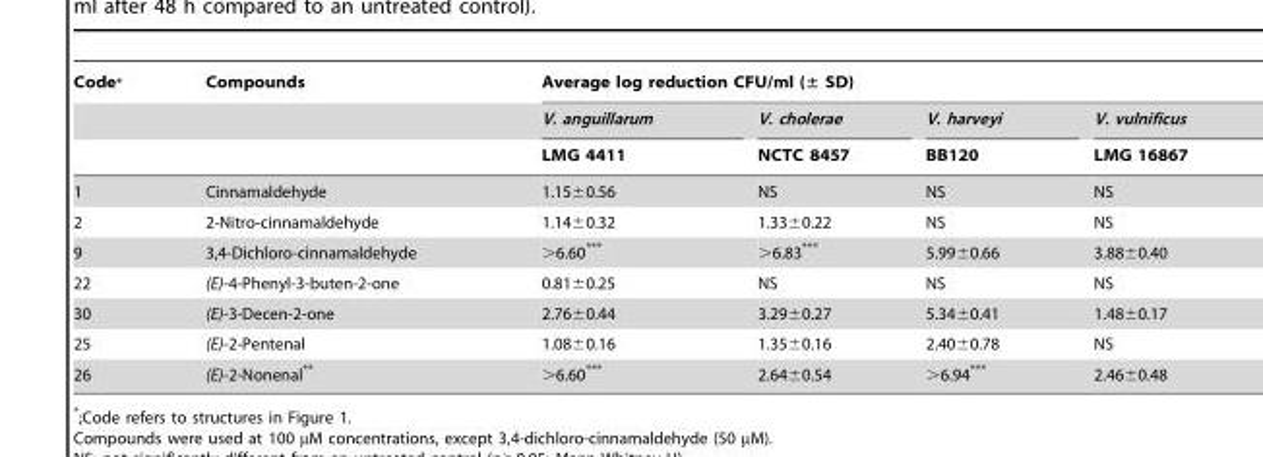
<table><thead><tr><td rowspan="3">Code*</td><td rowspan="3">Compounds</td><td colspan="4">Average log reduction CFU/ml (± SD)</td></tr><tr><td rowspan="2">V. anguillarum LMG 4411</td><td rowspan="2">V. cholerae NCTC 8457</td><td rowspan="2">V. harveyi BB120</td><td rowspan="2">V. vulnificus LMG 16867</td></tr><tr></tr></thead><tbody><tr><td>1</td><td>Cinnamaldehyde</td><td>1.15±0.56</td><td>NS</td><td>NS</td><td>NS</td></tr><tr><td>2</td><td>2-Nitro-cinnamaldehyde</td><td>1.14±0.32</td><td>1.33±0.22</td><td>NS</td><td>NS</td></tr><tr><td>9</td><td>3,4-Dichloro-cinnamaldehyde</td><td>&gt;6.60***</td><td>&gt;6.83***</td><td>5.99±0.66</td><td>3.88±0.40</td></tr><tr><td>22</td><td>(E)-4-Phenyl-3-buten-2-one</td><td>0.81±0.25</td><td>NS</td><td>NS</td><td>NS</td></tr><tr><td>30</td><td>(E)-3-Decen-2-one</td><td>2.76±0.44</td><td>3.29±0.27</td><td>5.34±0.41</td><td>1.48±0.17</td></tr><tr><td>25</td><td>(E)-2-Pentenal</td><td>1.08±0.16</td><td>1.35±0.16</td><td>2.40±0.78</td><td>NS</td></tr><tr><td>26</td><td>(E)-2-Nonenal**</td><td>&gt;6.60***</td><td>2.64±0.54</td><td>&gt;6.94***</td><td>2.46±0.48</td></tr></tbody></table>